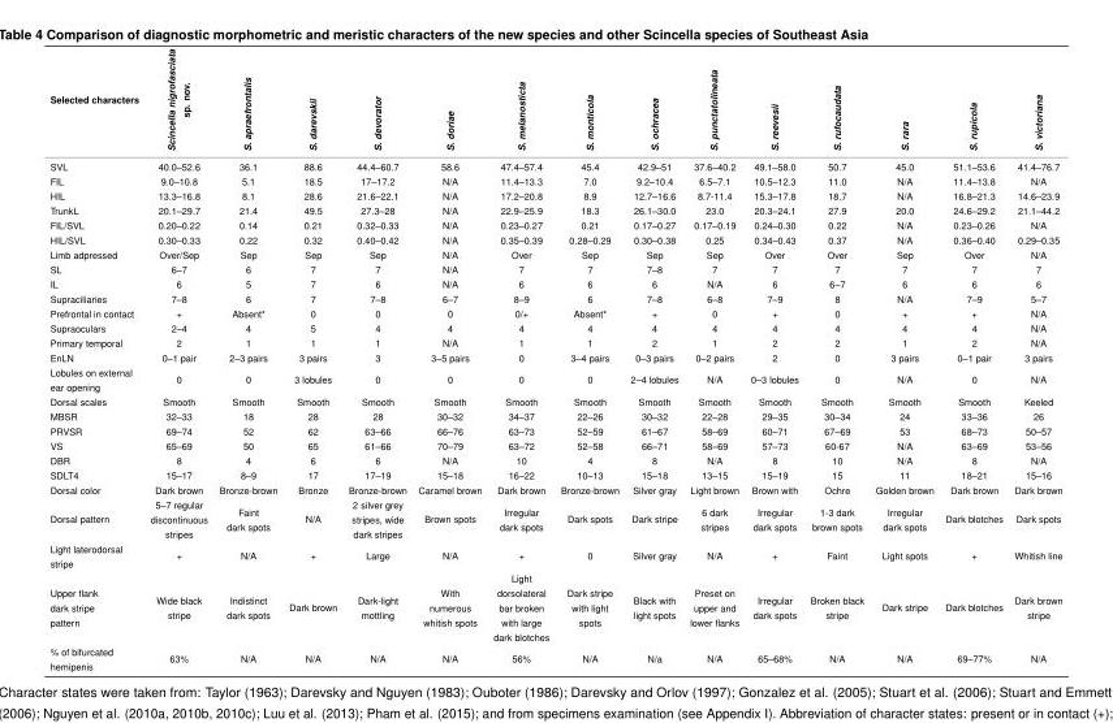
<table><thead><tr><td>Selected characters</td><td>Scincella nigrofasciata sp. nov.</td><td>S. apraefrontalis</td><td>S. darevskii</td><td>S. devorator</td><td>S. doriae</td><td>S. melanosticta</td><td>S. monticola</td><td>S. ochracea</td><td>S. punctatolineata</td><td>S. reevesii</td><td>S. rufocaudata</td><td>S. rara</td><td>S. rupicola</td><td>S. victoriana</td></tr></thead><tbody><tr><td>SVL</td><td>40.0–52.6</td><td>36.1</td><td>88.6</td><td>44.4–60.7</td><td>58.6</td><td>47.4–57.4</td><td>45.4</td><td>42.9–51</td><td>37.6–40.2</td><td>49.1–58.0</td><td>50.7</td><td>45.0</td><td>51.1–53.6</td><td>41.4–76.7</td></tr><tr><td>FIL</td><td>9.0–10.8</td><td>5.1</td><td>18.5</td><td>17–17.2</td><td>N/A</td><td>11.4–13.3</td><td>7.0</td><td>9.2–10.4</td><td>6.5–7.1</td><td>10.5–12.3</td><td>11.0</td><td>N/A</td><td>11.4–13.8</td><td>N/A</td></tr><tr><td>HIL</td><td>13.3–16.8</td><td>8.1</td><td>28.6</td><td>21.6–22.1</td><td>N/A</td><td>17.2–20.8</td><td>8.9</td><td>12.7–16.6</td><td>8.7-11.4</td><td>15.3–17.8</td><td>18.7</td><td>N/A</td><td>16.8–21.3</td><td>14.6–23.9</td></tr><tr><td>TrunkL</td><td>20.1–29.7</td><td>21.4</td><td>49.5</td><td>27.3–28</td><td>N/A</td><td>22.9–25.9</td><td>18.3</td><td>26.1–30.0</td><td>23.0</td><td>20.3–24.1</td><td>27.9</td><td>20.0</td><td>24.6–29.2</td><td>21.1–44.2</td></tr><tr><td>FIL/SVL</td><td>0.20–0.22</td><td>0.14</td><td>0.21</td><td>0.32–0.33</td><td>N/A</td><td>0.23–0.27</td><td>0.21</td><td>0.17–0.27</td><td>0.17–0.19</td><td>0.24–0.30</td><td>0.22</td><td>N/A</td><td>0.23–0.26</td><td>N/A</td></tr><tr><td>HIL/SVL</td><td>0.30–0.33</td><td>0.22</td><td>0.32</td><td>0.40–0.42</td><td>N/A</td><td>0.35–0.39</td><td>0.28–0.29</td><td>0.30–0.38</td><td>0.25</td><td>0.34–0.43</td><td>0.37</td><td>N/A</td><td>0.36–0.40</td><td>0.29–0.35</td></tr><tr><td>Limb adpressed</td><td>Over/Sep</td><td>Sep</td><td>Sep</td><td>Sep</td><td>N/A</td><td>Over</td><td>Sep</td><td>Sep</td><td>Sep</td><td>Over</td><td>Over</td><td>Sep</td><td>Over</td><td>N/A</td></tr><tr><td>SL</td><td>6–7</td><td>6</td><td>7</td><td>7</td><td>N/A</td><td>7</td><td>7</td><td>7–8</td><td>7</td><td>7</td><td>7</td><td>7</td><td>7</td><td>7</td></tr><tr><td>IL</td><td>6</td><td>5</td><td>7</td><td>6</td><td>N/A</td><td>6</td><td>6</td><td>6</td><td>N/A</td><td>6</td><td>6–7</td><td>6</td><td>6</td><td>6</td></tr><tr><td>Supraciliaries</td><td>7–8</td><td>6</td><td>7</td><td>7–8</td><td>6–7</td><td>8–9</td><td>6</td><td>7–8</td><td>6–8</td><td>7–9</td><td>8</td><td>N/A</td><td>7–9</td><td>5–7</td></tr><tr><td>Prefrontal in contact</td><td>+</td><td>Absent*</td><td>0</td><td>0</td><td>0</td><td>0/+</td><td>Absent*</td><td>+</td><td>0</td><td>+</td><td>0</td><td>+</td><td>+</td><td>N/A</td></tr><tr><td>Supraoculars</td><td>2–4</td><td>4</td><td>5</td><td>4</td><td>4</td><td>4</td><td>4</td><td>4</td><td>4</td><td>4</td><td>4</td><td>4</td><td>4</td><td>N/A</td></tr><tr><td>Primary temporal</td><td>2</td><td>1</td><td>1</td><td>1</td><td>N/A</td><td>1</td><td>1</td><td>2</td><td>1</td><td>2</td><td>2</td><td>1</td><td>2</td><td>N/A</td></tr><tr><td>EnLN</td><td>0–1 pair</td><td>2–3 pairs</td><td>3 pairs</td><td>3</td><td>3–5 pairs</td><td>0</td><td>3–4 pairs</td><td>0–3 pairs</td><td>0–2 pairs</td><td>2</td><td>0</td><td>3 pairs</td><td>0–1 pair</td><td>3 pairs</td></tr><tr><td>Lobules on external ear opening</td><td>0</td><td>0</td><td>3 lobules</td><td>0</td><td>0</td><td>0</td><td>0</td><td>2–4 lobules</td><td>N/A</td><td>0–3 lobules</td><td>0</td><td>N/A</td><td>0</td><td>N/A</td></tr><tr><td>Dorsal scales</td><td>Smooth</td><td>Smooth</td><td>Smooth</td><td>Smooth</td><td>Smooth</td><td>Smooth</td><td>Smooth</td><td>Smooth</td><td>Smooth</td><td>Smooth</td><td>Smooth</td><td>Smooth</td><td>Smooth</td><td>Keeled</td></tr><tr><td>MBSR</td><td>32–33</td><td>18</td><td>28</td><td>28</td><td>30–32</td><td>34–37</td><td>22–26</td><td>30–32</td><td>22–28</td><td>29–35</td><td>30–34</td><td>24</td><td>33–36</td><td>26</td></tr><tr><td>PRVSR</td><td>69–74</td><td>52</td><td>62</td><td>63–66</td><td>66–76</td><td>63–73</td><td>52–59</td><td>61–67</td><td>58–69</td><td>60–71</td><td>67–69</td><td>53</td><td>68–73</td><td>50–57</td></tr><tr><td>VS</td><td>65–69</td><td>50</td><td>65</td><td>61–66</td><td>70–79</td><td>63–72</td><td>52–58</td><td>66–71</td><td>58–69</td><td>57–73</td><td>60-67</td><td>N/A</td><td>63–69</td><td>53–56</td></tr><tr><td>DBR</td><td>8</td><td>4</td><td>6</td><td>6</td><td>N/A</td><td>10</td><td>4</td><td>8</td><td>N/A</td><td>8</td><td>10</td><td>N/A</td><td>8</td><td>N/A</td></tr><tr><td>SDLT4</td><td>15–17</td><td>8–9</td><td>17</td><td>17–19</td><td>15–18</td><td>16–22</td><td>10–13</td><td>15–18</td><td>13–15</td><td>15–19</td><td>15</td><td>11</td><td>18–21</td><td>15–16</td></tr><tr><td>Dorsal color</td><td>Dark brown</td><td>Bronze-brown</td><td>Bronze</td><td>Bronze-brown</td><td>Caramel brown</td><td>Dark brown</td><td>Bronze-brown</td><td>Silver gray</td><td>Light brown</td><td>Brown with</td><td>Ochre</td><td>Golden brown</td><td>Dark brown</td><td>Dark brown</td></tr><tr><td>Dorsal pattern</td><td>5–7 regular discontinuous stripes</td><td>Faint dark spots</td><td>N/A</td><td>2 silver grey stripes, wide dark stripes</td><td>Brown spots</td><td>Irregular dark spots</td><td>Dark spots</td><td>Dark stripe</td><td>6 dark stripes</td><td>Irregular dark spots</td><td>1-3 dark brown spots</td><td>Irregular dark spots</td><td>Dark blotches</td><td>Dark spots</td></tr><tr><td>Light laterodorsal stripe</td><td>+</td><td>N/A</td><td>+</td><td>Large</td><td>N/A</td><td>+</td><td>0</td><td>Silver gray</td><td>N/A</td><td>+</td><td>Faint</td><td>Light spots</td><td>+</td><td>Whitish line</td></tr><tr><td>Upper flank dark stripe pattern</td><td>Wide black stripe</td><td>Indistinct dark spots</td><td>Dark brown</td><td>Dark-light mottling</td><td>With numerous whitish spots</td><td>Light dorsolateral bar broken with large dark blotches</td><td>Dark stripe with light spots</td><td>Black with light spots</td><td>Preset on upper and lower flanks</td><td>Irregular dark spots</td><td>Broken black stripe</td><td>Dark stripe</td><td>Dark blotches</td><td>Dark brown stripe</td></tr><tr><td>% of bifurcated hemipenis</td><td>63%</td><td>N/A</td><td>N/A</td><td>N/A</td><td>N/A</td><td>56%</td><td>N/A</td><td>N/a</td><td>N/A</td><td>65–68%</td><td>N/A</td><td>N/A</td><td>69–77%</td><td>N/A</td></tr></tbody></table>